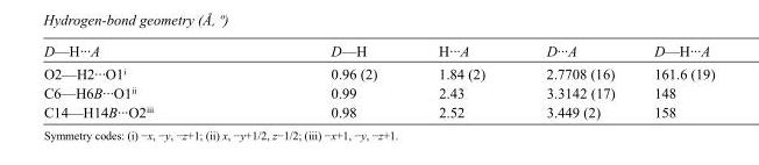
<table><tbody><tr><td>D—H···A</td><td>D—H</td><td>H···A</td><td>D···A</td><td>D—H···A</td></tr><tr><td>O2—H2···O1<sup>i</sup></td><td>0.96 (2)</td><td>1.84 (2)</td><td>2.7708 (16)</td><td>161.6 (19)</td></tr><tr><td>C6—H6B···O1<sup>ii</sup></td><td>0.99</td><td>2.43</td><td>3.3142 (17)</td><td>148</td></tr><tr><td>C14—H14B···O2<sup>iii</sup></td><td>0.98</td><td>2.52</td><td>3.449 (2)</td><td>158</td></tr></tbody></table>